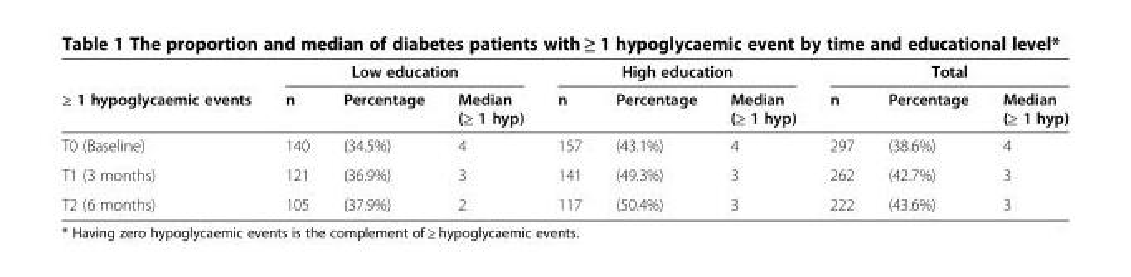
<table><thead><tr><td rowspan="2">≥ 1 hypoglycaemic events</td><td colspan="3">Low education</td><td colspan="3">High education</td><td colspan="3">Total</td></tr><tr><td>n</td><td>Percentage</td><td>Median (≥ 1 hyp)</td><td>n</td><td>Percentage</td><td>Median (≥ 1 hyp)</td><td>n</td><td>Percentage</td><td>Median (≥ 1 hyp)</td></tr></thead><tbody><tr><td>T0 (Baseline)</td><td>140</td><td>(34.5%)</td><td>4</td><td>157</td><td>(43.1%)</td><td>4</td><td>297</td><td>(38.6%)</td><td>4</td></tr><tr><td>T1 (3 months)</td><td>121</td><td>(36.9%)</td><td>3</td><td>141</td><td>(49.3%)</td><td>3</td><td>262</td><td>(42.7%)</td><td>3</td></tr><tr><td>T2 (6 months)</td><td>105</td><td>(37.9%)</td><td>2</td><td>117</td><td>(50.4%)</td><td>3</td><td>222</td><td>(43.6%)</td><td>3</td></tr></tbody></table>